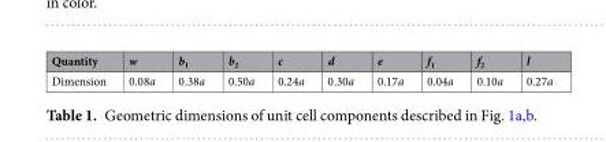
<table><thead><tr><td>Quantity</td><td>w</td><td>b<sub>1</sub></td><td>b<sub>2</sub></td><td>c</td><td>d</td><td>e</td><td>f<sub>1</sub></td><td>f<sub>2</sub></td><td>l</td></tr></thead><tbody><tr><td>Dimension</td><td>0.08a</td><td>0.38a</td><td>0.50a</td><td>0.24a</td><td>0.30a</td><td>0.17a</td><td>0.04a</td><td>0.10a</td><td>0.27a</td></tr></tbody></table>